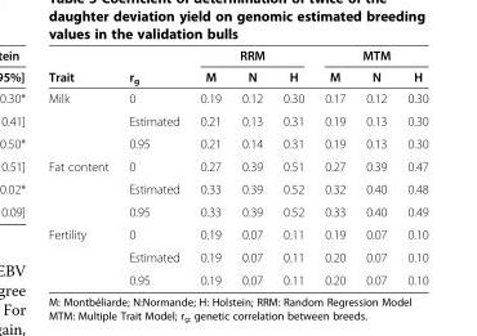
<table><thead><tr><td rowspan="2">Trait</td><td rowspan="2">r<sub>g</sub></td><td colspan="3">RRM</td><td colspan="3">MTM</td></tr><tr><td>M</td><td>N</td><td>H</td><td>M</td><td>N</td><td>H</td></tr></thead><tbody><tr><td rowspan="3">Milk</td><td>0</td><td>0.19</td><td>0.12</td><td>0.30</td><td>0.17</td><td>0.12</td><td>0.30</td></tr><tr><td>Estimated</td><td>0.21</td><td>0.13</td><td>0.31</td><td>0.19</td><td>0.13</td><td>0.30</td></tr><tr><td>0.95</td><td>0.21</td><td>0.14</td><td>0.31</td><td>0.19</td><td>0.13</td><td>0.30</td></tr><tr><td rowspan="3">Fat content</td><td>0</td><td>0.27</td><td>0.39</td><td>0.51</td><td>0.27</td><td>0.39</td><td>0.47</td></tr><tr><td>Estimated</td><td>0.33</td><td>0.39</td><td>0.52</td><td>0.32</td><td>0.40</td><td>0.48</td></tr><tr><td>0.95</td><td>0.33</td><td>0.39</td><td>0.52</td><td>0.33</td><td>0.40</td><td>0.49</td></tr><tr><td rowspan="3">Fertility</td><td>0</td><td>0.19</td><td>0.07</td><td>0.11</td><td>0.19</td><td>0.07</td><td>0.10</td></tr><tr><td>Estimated</td><td>0.19</td><td>0.07</td><td>0.11</td><td>0.20</td><td>0.07</td><td>0.10</td></tr><tr><td>0.95</td><td>0.19</td><td>0.07</td><td>0.11</td><td>0.20</td><td>0.07</td><td>0.10</td></tr></tbody></table>